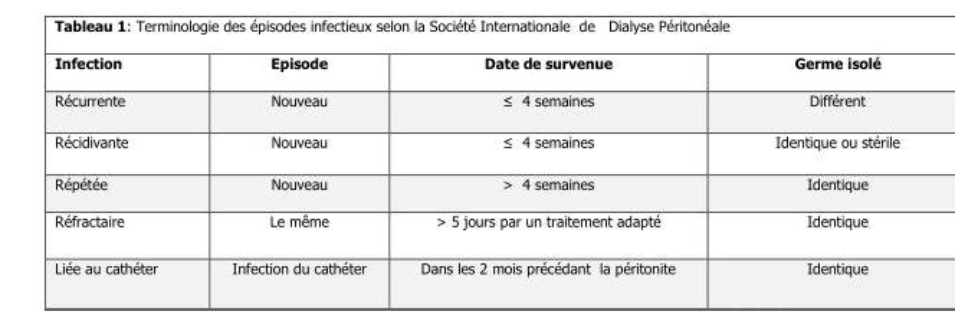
<table><thead><tr><td>Infection</td><td>Episode</td><td>Date de survenue</td><td>Germe isolé</td></tr></thead><tbody><tr><td>Récurrente</td><td>Nouveau</td><td>≤ 4 semaines</td><td>Différent</td></tr><tr><td>Récidivante</td><td>Nouveau</td><td>≤ 4 semaines</td><td>Identique ou stérile</td></tr><tr><td>Répétée</td><td>Nouveau</td><td>&gt; 4 semaines</td><td>Identique</td></tr><tr><td>Réfractaire</td><td>Le même</td><td>&gt; 5 jours par un traitement adapté</td><td>Identique</td></tr><tr><td>Liée au cathéter</td><td>Infection du cathéter</td><td>Dans les 2 mois précédant la péritonite</td><td>Identique</td></tr></tbody></table>